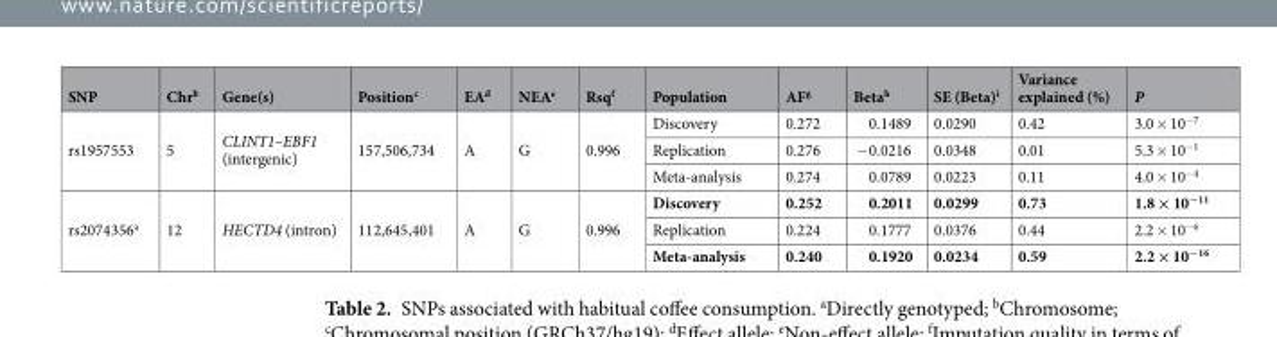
<table><thead><tr><td>SNP</td><td>Chr<sup>b</sup></td><td>Gene(s)</td><td>Position<sup>c</sup></td><td>EA<sup>d</sup></td><td>NEA<sup>e</sup></td><td>Rsq<sup>f</sup></td><td>Population</td><td>AF<sup>g</sup></td><td>Beta<sup>h</sup></td><td>SE (Beta)<sup>i</sup></td><td>Variance explained (%)</td><td>P</td></tr></thead><tbody><tr><td rowspan="3">rs1957553</td><td rowspan="3">5</td><td rowspan="3">CLINT1–EBF1 (intergenic)</td><td rowspan="3">157,506,734</td><td rowspan="3">A</td><td rowspan="3">G</td><td rowspan="3">0.996</td><td>Discovery</td><td>0.272</td><td>0.1489</td><td>0.0290</td><td>0.42</td><td>3.0 × 10<sup>−7</sup></td></tr><tr><td>Replication</td><td>0.276</td><td>−0.0216</td><td>0.0348</td><td>0.01</td><td>5.3 × 10<sup>−1</sup></td></tr><tr><td>Meta-analysis</td><td>0.274</td><td>0.0789</td><td>0.0223</td><td>0.11</td><td>4.0 × 10<sup>−4</sup></td></tr><tr><td rowspan="3">rs2074356<sup>a</sup></td><td rowspan="3">12</td><td rowspan="3">HECTD4 (intron)</td><td rowspan="3">112,645,401</td><td rowspan="3">A</td><td rowspan="3">G</td><td rowspan="3">0.996</td><td>Discovery</td><td>0.252</td><td>0.2011</td><td>0.0299</td><td>0.73</td><td>1.8 × 10<sup>−11</sup></td></tr><tr><td>Replication</td><td>0.224</td><td>0.1777</td><td>0.0376</td><td>0.44</td><td>2.2 × 10<sup>−6</sup></td></tr><tr><td>Meta-analysis</td><td>0.240</td><td>0.1920</td><td>0.0234</td><td>0.59</td><td>2.2 × 10<sup>−16</sup></td></tr></tbody></table>